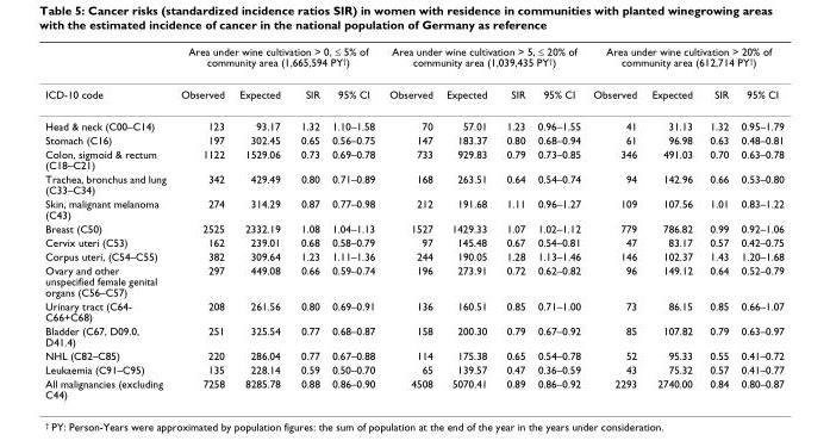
<table><thead><tr><td rowspan="2">ICD-10 code</td><td colspan="4">Area under wine cultivation &gt; 0, ≤ 5% of community area (1,665,594 PY<sup>†</sup>)</td><td colspan="4">Area under wine cultivation &gt; 5, ≤ 20% of community area (1,039,435 PY<sup>†</sup>)</td><td colspan="4">Area under wine cultivation &gt; 20% of community area (612,714 PY<sup>†</sup>)</td></tr><tr><td>Observed</td><td>Expected</td><td>SIR</td><td>95% CI</td><td>Observed</td><td>Expected</td><td>SIR</td><td>95% CI</td><td>Observed</td><td>Expected</td><td>SIR</td><td>95% CI</td></tr></thead><tbody><tr><td>Head &amp; neck (C00–C14)</td><td>123</td><td>93.17</td><td>1.32</td><td>1.10–1.58</td><td>70</td><td>57.01</td><td>1.23</td><td>0.96–1.55</td><td>41</td><td>31.13</td><td>1.32</td><td>0.95–1.79</td></tr><tr><td>Stomach (C16)</td><td>197</td><td>302.45</td><td>0.65</td><td>0.56–0.75</td><td>147</td><td>183.37</td><td>0.80</td><td>0.68–0.94</td><td>61</td><td>96.98</td><td>0.63</td><td>0.48–0.81</td></tr><tr><td>Colon, sigmoid &amp; rectum (C18–C21)</td><td>1122</td><td>1529.06</td><td>0.73</td><td>0.69–0.78</td><td>733</td><td>929.83</td><td>0.79</td><td>0.73–0.85</td><td>346</td><td>491.03</td><td>0.70</td><td>0.63–0.78</td></tr><tr><td>Trachea, bronchus and lung (C33–C34)</td><td>342</td><td>429.49</td><td>0.80</td><td>0.71–0.89</td><td>168</td><td>263.51</td><td>0.64</td><td>0.54–0.74</td><td>94</td><td>142.96</td><td>0.66</td><td>0.53–0.80</td></tr><tr><td>Skin, malignant melanoma (C43)</td><td>274</td><td>314.29</td><td>0.87</td><td>0.77–0.98</td><td>212</td><td>191.68</td><td>1.11</td><td>0.96–1.27</td><td>109</td><td>107.56</td><td>1.01</td><td>0.83–1.22</td></tr><tr><td>Breast (C50)</td><td>2525</td><td>2332.19</td><td>1.08</td><td>1.04–1.13</td><td>1527</td><td>1429.33</td><td>1.07</td><td>1.02–1.12</td><td>779</td><td>786.82</td><td>0.99</td><td>0.92–1.06</td></tr><tr><td>Cervix uteri (C53)</td><td>162</td><td>239.01</td><td>0.68</td><td>0.58–0.79</td><td>97</td><td>145.48</td><td>0.67</td><td>0.54–0.81</td><td>47</td><td>83.17</td><td>0.57</td><td>0.42–0.75</td></tr><tr><td>Corpus uteri, (C54–C55)</td><td>382</td><td>309.64</td><td>1.23</td><td>1.11–1.36</td><td>244</td><td>190.05</td><td>1.28</td><td>1.13–1.46</td><td>146</td><td>102.37</td><td>1.43</td><td>1.20–1.68</td></tr><tr><td>Ovary and other unspecified female genital organs (C56–C57)</td><td>297</td><td>449.08</td><td>0.66</td><td>0.59–0.74</td><td>196</td><td>273.91</td><td>0.72</td><td>0.62–0.82</td><td>96</td><td>149.12</td><td>0.64</td><td>0.52–0.79</td></tr><tr><td>Urinary tract (C64- C66+C68)</td><td>208</td><td>261.56</td><td>0.80</td><td>0.69–0.91</td><td>136</td><td>160.51</td><td>0.85</td><td>0.71–1.00</td><td>73</td><td>86.15</td><td>0.85</td><td>0.66–1.07</td></tr><tr><td>Bladder (C67, D09.0, D41.4)</td><td>251</td><td>325.54</td><td>0.77</td><td>0.68–0.87</td><td>158</td><td>200.30</td><td>0.79</td><td>0.67–0.92</td><td>85</td><td>107.82</td><td>0.79</td><td>0.63–0.97</td></tr><tr><td>NHL (C82–C85)</td><td>220</td><td>286.04</td><td>0.77</td><td>0.67–0.88</td><td>114</td><td>175.38</td><td>0.65</td><td>0.54–0.78</td><td>52</td><td>95.33</td><td>0.55</td><td>0.41–0.72</td></tr><tr><td>Leukaemia (C91–C95)</td><td>135</td><td>228.14</td><td>0.59</td><td>0.50–0.70</td><td>65</td><td>139.57</td><td>0.47</td><td>0.36–0.59</td><td>43</td><td>75.32</td><td>0.57</td><td>0.41–0.77</td></tr><tr><td>All malignancies (excluding C44)</td><td>7258</td><td>8285.78</td><td>0.88</td><td>0.86–0.90</td><td>4508</td><td>5070.41</td><td>0.89</td><td>0.86–0.92</td><td>2293</td><td>2740.00</td><td>0.84</td><td>0.80–0.87</td></tr></tbody></table>